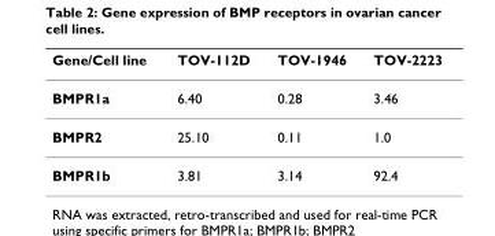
<table><thead><tr><td>Gene/Cell line</td><td>TOV-112D</td><td>TOV-1946</td><td>TOV-2223</td></tr></thead><tbody><tr><td>BMPR1a</td><td>6.40</td><td>0.28</td><td>3.46</td></tr><tr><td>BMPR2</td><td>25.10</td><td>0.11</td><td>1.0</td></tr><tr><td>BMPR1b</td><td>3.81</td><td>3.14</td><td>92.4</td></tr></tbody></table>